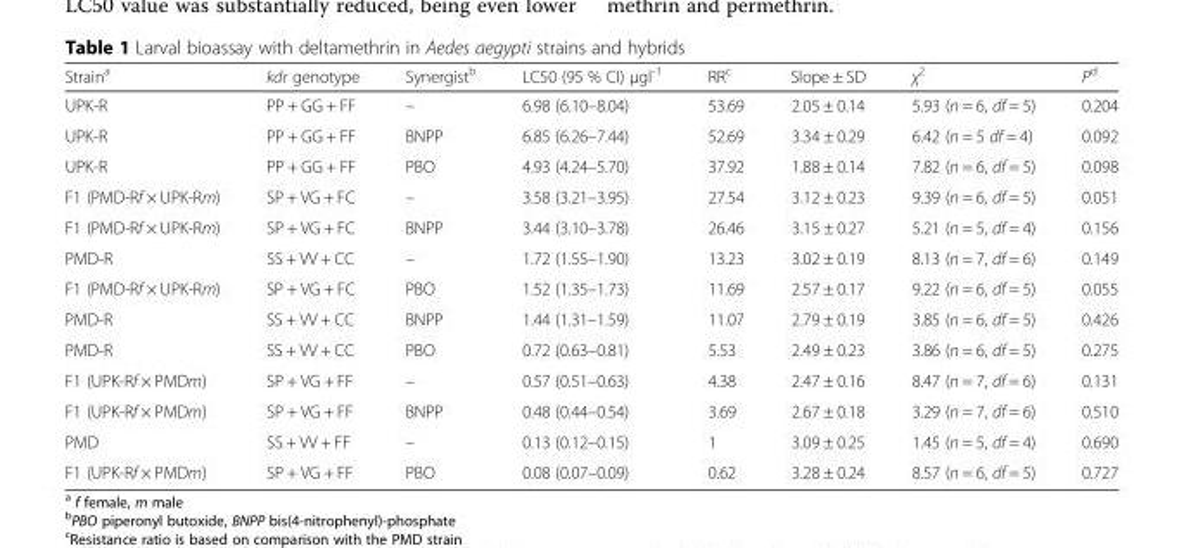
<table><thead><tr><td>Strain<sup>a</sup></td><td>kdr genotype</td><td>Synergist<sup>b</sup></td><td>LC50 (95 % CI) μgl<sup>-1</sup></td><td>RR<sup>c</sup></td><td>Slope ± SD</td><td>χ<sup>2</sup></td><td>P<sup>d</sup></td></tr></thead><tbody><tr><td>UPK-R</td><td>PP + GG + FF</td><td>–</td><td>6.98 (6.10–8.04)</td><td>53.69</td><td>2.05 ± 0.14</td><td>5.93 (n = 6, df = 5)</td><td>0.204</td></tr><tr><td>UPK-R</td><td>PP + GG + FF</td><td>BNPP</td><td>6.85 (6.26–7.44)</td><td>52.69</td><td>3.34 ± 0.29</td><td>6.42 (n = 5 df = 4)</td><td>0.092</td></tr><tr><td>UPK-R</td><td>PP + GG + FF</td><td>PBO</td><td>4.93 (4.24–5.70)</td><td>37.92</td><td>1.88 ± 0.14</td><td>7.82 (n = 6, df = 5)</td><td>0.098</td></tr><tr><td>F1 (PMD-Rf × UPK-Rm)</td><td>SP + VG + FC</td><td>–</td><td>3.58 (3.21–3.95)</td><td>27.54</td><td>3.12 ± 0.23</td><td>9.39 (n = 6, df = 5)</td><td>0.051</td></tr><tr><td>F1 (PMD-Rf × UPK-Rm)</td><td>SP + VG + FC</td><td>BNPP</td><td>3.44 (3.10–3.78)</td><td>26.46</td><td>3.15 ± 0.27</td><td>5.21 (n = 5, df = 4)</td><td>0.156</td></tr><tr><td>PMD-R</td><td>SS + VV + CC</td><td>–</td><td>1.72 (1.55–1.90)</td><td>13.23</td><td>3.02 ± 0.19</td><td>8.13 (n = 7, df = 6)</td><td>0.149</td></tr><tr><td>F1 (PMD-Rf × UPK-Rm)</td><td>SP + VG + FC</td><td>PBO</td><td>1.52 (1.35–1.73)</td><td>11.69</td><td>2.57 ± 0.17</td><td>9.22 (n = 6, df = 5)</td><td>0.055</td></tr><tr><td>PMD-R</td><td>SS + VV + CC</td><td>BNPP</td><td>1.44 (1.31–1.59)</td><td>11.07</td><td>2.79 ± 0.19</td><td>3.85 (n = 6, df = 5)</td><td>0.426</td></tr><tr><td>PMD-R</td><td>SS + VV + CC</td><td>PBO</td><td>0.72 (0.63–0.81)</td><td>5.53</td><td>2.49 ± 0.23</td><td>3.86 (n = 6, df = 5)</td><td>0.275</td></tr><tr><td>F1 (UPK-Rf × PMDm)</td><td>SP + VG + FF</td><td>–</td><td>0.57 (0.51–0.63)</td><td>4.38</td><td>2.47 ± 0.16</td><td>8.47 (n = 7, df = 6)</td><td>0.131</td></tr><tr><td>F1 (UPK-Rf × PMDm)</td><td>SP + VG + FF</td><td>BNPP</td><td>0.48 (0.44–0.54)</td><td>3.69</td><td>2.67 ± 0.18</td><td>3.29 (n = 7, df = 6)</td><td>0.510</td></tr><tr><td>PMD</td><td>SS + VV + FF</td><td>–</td><td>0.13 (0.12–0.15)</td><td>1</td><td>3.09 ± 0.25</td><td>1.45 (n = 5, df = 4)</td><td>0.690</td></tr><tr><td>F1 (UPK-Rf × PMDm)</td><td>SP + VG + FF</td><td>PBO</td><td>0.08 (0.07–0.09)</td><td>0.62</td><td>3.28 ± 0.24</td><td>8.57 (n = 6, df = 5)</td><td>0.727</td></tr></tbody></table>